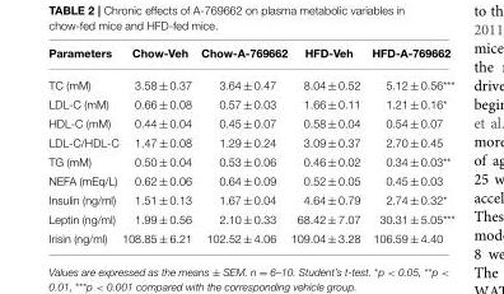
<table><thead><tr><td>Parameters</td><td>Chow-Veh</td><td>Chow-A-769662</td><td>HFD-Veh</td><td>HFD-A-769662</td></tr></thead><tbody><tr><td>TC (mM)</td><td>3.58 ± 0.37</td><td>3.64 ± 0.47</td><td>8.04 ± 0.52</td><td>5.12 ± 0.56***</td></tr><tr><td>LDL-C (mM)</td><td>0.66 ± 0.08</td><td>0.57 ± 0.03</td><td>1.66 ± 0.11</td><td>1.21 ± 0.16*</td></tr><tr><td>HDL-C (mM)</td><td>0.44 ± 0.04</td><td>0.45 ± 0.07</td><td>0.58 ± 0.04</td><td>0.54 ± 0.07</td></tr><tr><td>LDL-C/HDL-C</td><td>1.47 ± 0.08</td><td>1.29 ± 0.24</td><td>3.09 ± 0.37</td><td>2.70 ± 0.45</td></tr><tr><td>TG (mM)</td><td>0.50 ± 0.04</td><td>0.53 ± 0.06</td><td>0.46 ± 0.02</td><td>0.34 ± 0.03**</td></tr><tr><td>NEFA (mEq/L)</td><td>0.62 ± 0.06</td><td>0.64 ± 0.09</td><td>0.52 ± 0.05</td><td>0.45 ± 0.03</td></tr><tr><td>Insulin (ng/ml)</td><td>1.51 ± 0.13</td><td>1.67 ± 0.04</td><td>4.64 ± 0.79</td><td>2.74 ± 0.32*</td></tr><tr><td>Leptin (ng/ml)</td><td>1.99 ± 0.56</td><td>2.10 ± 0.33</td><td>68.42 ± 7.07</td><td>30.31 ± 5.05***</td></tr><tr><td>Irisin (ng/ml)</td><td>108.85 ± 6.21</td><td>102.52 ± 4.06</td><td>109.04 ± 3.28</td><td>106.59 ± 4.40</td></tr></tbody></table>